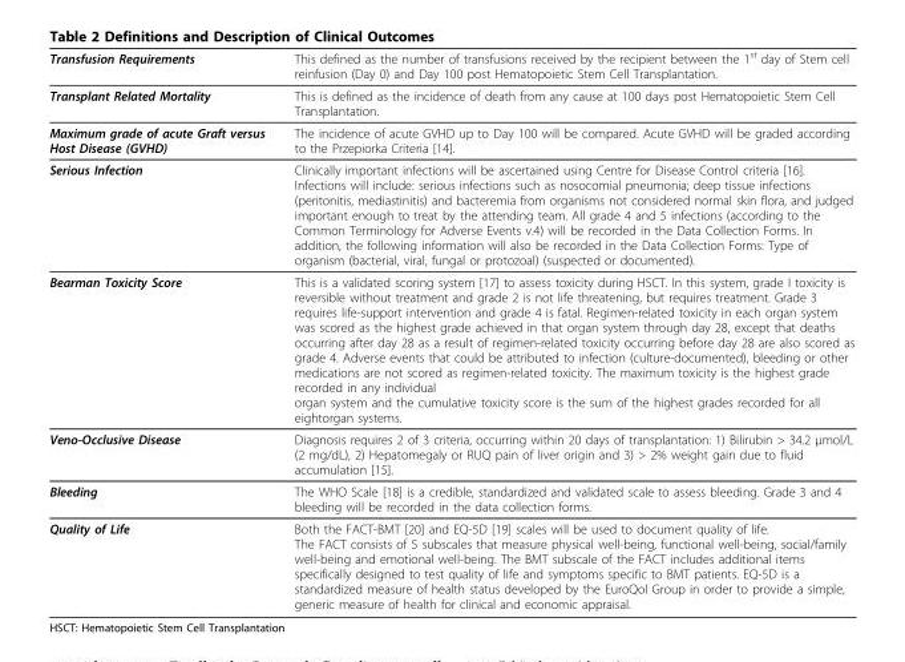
<table><thead><tr><td>Transfusion Requirements</td><td>This defined as the number of transfusions received by the recipient between the 1<sup>st</sup> day of Stem cell reinfusion (Day 0) and Day 100 post Hematopoietic Stem Cell Transplantation.</td></tr></thead><tbody><tr><td>Transplant Related Mortality</td><td>This is defined as the incidence of death from any cause at 100 days post Hematopoietic Stem Cell Transplantation.</td></tr><tr><td>Maximum grade of acute Graft versus Host Disease (GVHD)</td><td>The incidence of acute GVHD up to Day 100 will be compared. Acute GVHD will be graded according to the Przepiorka Criteria [14].</td></tr><tr><td>Serious Infection</td><td>Clinically important infections will be ascertained using Centre for Disease Control criteria [16]. Infections will include: serious infections such as nosocomial pneumonia; deep tissue infections (peritonitis, mediastinitis) and bacteremia from organisms not considered normal skin flora, and judged important enough to treat by the attending team. All grade 4 and 5 infections (according to the Common Terminology for Adverse Events v.4) will be recorded in the Data Collection Forms. In addition, the following information will also be recorded in the Data Collection Forms: Type of organism (bacterial, viral, fungal or protozoal) (suspected or documented).</td></tr><tr><td>Bearman Toxicity Score</td><td>This is a validated scoring system [17] to assess toxicity during HSCT. In this system, grade I toxicity is reversible without treatment and grade 2 is not life threatening, but requires treatment. Grade 3 requires life-support intervention and grade 4 is fatal. Regimen-related toxicity in each organ system was scored as the highest grade achieved in that organ system through day 28, except that deaths occurring after day 28 as a result of regimen-related toxicity occurring before day 28 are also scored as grade 4. Adverse events that could be attributed to infection (culture-documented), bleeding or other medications are not scored as regimen-related toxicity. The maximum toxicity is the highest grade recorded in any individual organ system and the cumulative toxicity score is the sum of the highest grades recorded for all eightorgan systems.</td></tr><tr><td>Veno-Occlusive Disease</td><td>Diagnosis requires 2 of 3 criteria, occurring within 20 days of transplantation: 1) Bilirubin &gt; 34.2 μmol/L (2 mg/dL), 2) Hepatomegaly or RUQ pain of liver origin and 3) &gt; 2% weight gain due to fluid accumulation [15].</td></tr><tr><td>Bleeding</td><td>The WHO Scale [18] is a credible, standardized and validated scale to assess bleeding. Grade 3 and 4 bleeding will be recorded in the data collection forms.</td></tr><tr><td>Quality of Life</td><td>Both the FACT-BMT [20] and EQ-5D [19] scales will be used to document quality of life. The FACT consists of 5 subscales that measure physical well-being, functional well-being, social/family well-being and emotional well-being. The BMT subscale of the FACT includes additional items specifically designed to test quality of life and symptoms specific to BMT patients. EQ-5D is a standardized measure of health status developed by the EuroQol Group in order to provide a simple, generic measure of health for clinical and economic appraisal.</td></tr></tbody></table>